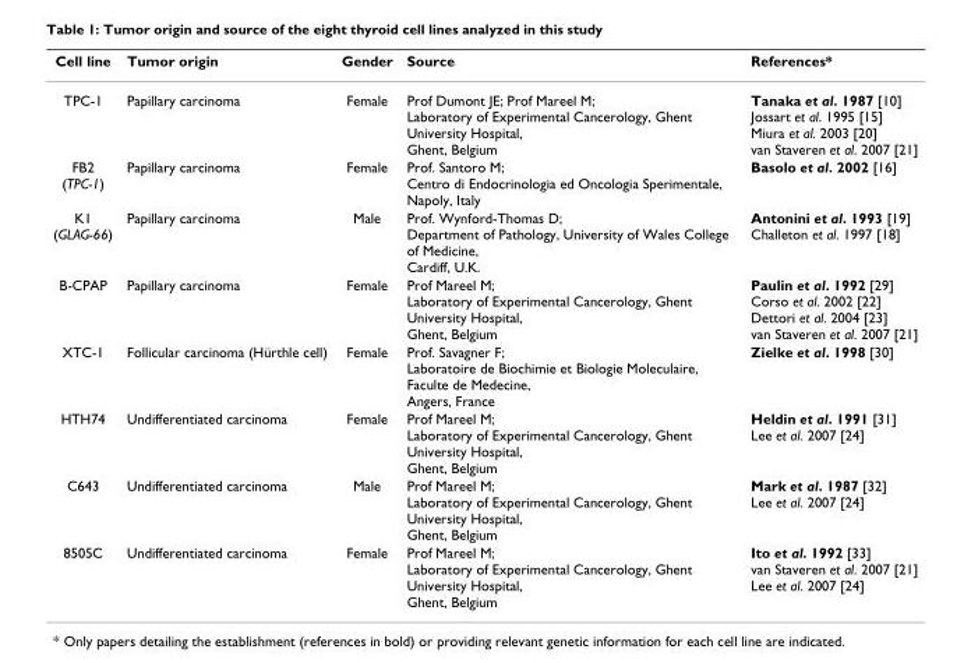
<table><thead><tr><td>Cell line</td><td>Tumor origin</td><td>Gender</td><td>Source</td><td>References*</td></tr></thead><tbody><tr><td>TPC-1</td><td>Papillary carcinoma</td><td>Female</td><td>Prof Dumont JE; Prof Mareel M; Laboratory of Experimental Cancerology, Ghent University Hospital, Ghent, Belgium</td><td>Tanaka et al. 1987 [10] Jossart et al. 1995 [15] Miura et al. 2003 [20] van Staveren et al. 2007 [21]</td></tr><tr><td>FB2 (TPC-1)</td><td>Papillary carcinoma</td><td>Female</td><td>Prof. Santoro M; Centro di Endocrinologia ed Oncologia Sperimentale, Napoly, Italy</td><td>Basolo et al. 2002 [16]</td></tr><tr><td>K1 (GLAG-66)</td><td>Papillary carcinoma</td><td>Male</td><td>Prof. Wynford-Thomas D; Department of Pathology, University of Wales College of Medicine, Cardiff, U.K.</td><td>Antonini et al. 1993 [19] Challeton et al. 1997 [18]</td></tr><tr><td>B-CPAP</td><td>Papillary carcinoma</td><td>Female</td><td>Prof Mareel M; Laboratory of Experimental Cancerology, Ghent University Hospital, Ghent, Belgium</td><td>Paulin et al. 1992 [29] Corso et al. 2002 [22] Dettori et al. 2004 [23] van Staveren et al. 2007 [21]</td></tr><tr><td>XTC-1</td><td>Follicular carcinoma (Hürthle cell)</td><td>Female</td><td>Prof. Savagner F; Laboratoire de Biochimie et Biologie Moleculaire, Faculte de Medecine, Angers, France</td><td>Zielke et al. 1998 [30]</td></tr><tr><td>HTH74</td><td>Undifferentiated carcinoma</td><td>Female</td><td>Prof Mareel M; Laboratory of Experimental Cancerology, Ghent University Hospital, Ghent, Belgium</td><td>Heldin et al. 1991 [31] Lee et al. 2007 [24]</td></tr><tr><td>C643</td><td>Undifferentiated carcinoma</td><td>Male</td><td>Prof Mareel M; Laboratory of Experimental Cancerology, Ghent University Hospital, Ghent, Belgium</td><td>Mark et al. 1987 [32] Lee et al. 2007 [24]</td></tr><tr><td>8505C</td><td>Undifferentiated carcinoma</td><td>Female</td><td>Prof Mareel M; Laboratory of Experimental Cancerology, Ghent University Hospital, Ghent, Belgium</td><td>Ito et al. 1992 [33] van Staveren et al. 2007 [21] Lee et al. 2007 [24]</td></tr></tbody></table>